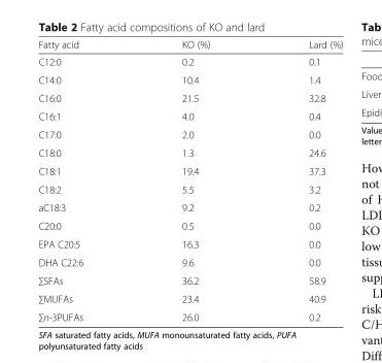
<table><thead><tr><td>Fatty acid</td><td>KO (%)</td><td>Lard (%)</td></tr></thead><tbody><tr><td>C12:0</td><td>0.2</td><td>0.1</td></tr><tr><td>C14:0</td><td>10.4</td><td>1.4</td></tr><tr><td>C16:0</td><td>21.5</td><td>32.8</td></tr><tr><td>C16:1</td><td>4.0</td><td>0.4</td></tr><tr><td>C17:0</td><td>2.0</td><td>0.0</td></tr><tr><td>C18:0</td><td>1.3</td><td>24.6</td></tr><tr><td>C18:1</td><td>19.4</td><td>37.3</td></tr><tr><td>C18:2</td><td>5.5</td><td>3.2</td></tr><tr><td>aC18:3</td><td>9.2</td><td>0.2</td></tr><tr><td>C20:0</td><td>0.5</td><td>0.0</td></tr><tr><td>EPA C20:5</td><td>16.3</td><td>0.0</td></tr><tr><td>DHA C22:6</td><td>9.6</td><td>0.0</td></tr><tr><td>∑SFAs</td><td>36.2</td><td>58.9</td></tr><tr><td>∑MUFAs</td><td>23.4</td><td>40.9</td></tr><tr><td>∑n-3PUFAs</td><td>26.0</td><td>0.2</td></tr></tbody></table>